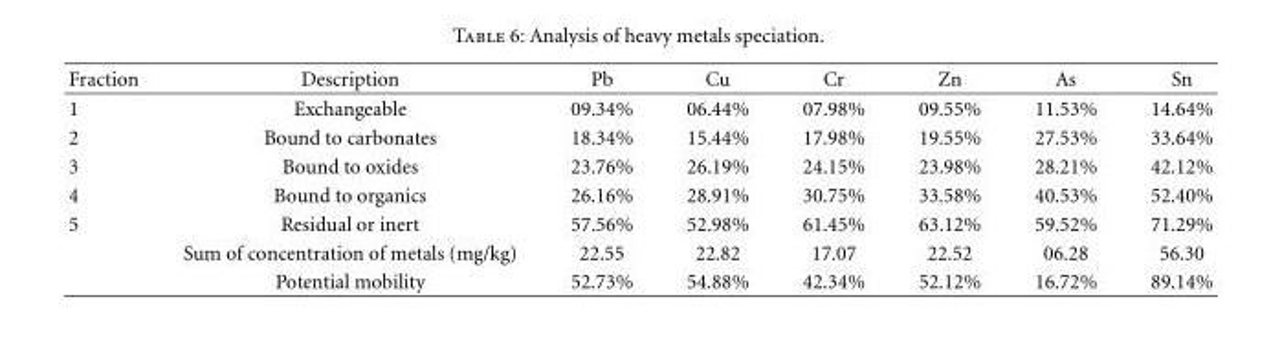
<table><thead><tr><td>Fraction</td><td>Description</td><td>Pb</td><td>Cu</td><td>Cr</td><td>Zn</td><td>As</td><td>Sn</td></tr></thead><tbody><tr><td>1</td><td>Exchangeable</td><td>09.34%</td><td>06.44%</td><td>07.98%</td><td>09.55%</td><td>11.53%</td><td>14.64%</td></tr><tr><td>2</td><td>Bound to carbonates</td><td>18.34%</td><td>15.44%</td><td>17.98%</td><td>19.55%</td><td>27.53%</td><td>33.64%</td></tr><tr><td>3</td><td>Bound to oxides</td><td>23.76%</td><td>26.19%</td><td>24.15%</td><td>23.98%</td><td>28.21%</td><td>42.12%</td></tr><tr><td>4</td><td>Bound to organics</td><td>26.16%</td><td>28.91%</td><td>30.75%</td><td>33.58%</td><td>40.53%</td><td>52.40%</td></tr><tr><td rowspan="3">5</td><td>Residual or inert</td><td>57.56%</td><td>52.98%</td><td>61.45%</td><td>63.12%</td><td>59.52%</td><td>71.29%</td></tr><tr><td>Sum of concentration of metals (mg/kg)</td><td>22.55</td><td>22.82</td><td>17.07</td><td>22.52</td><td>06.28</td><td>56.30</td></tr><tr><td>Potential mobility</td><td>52.73%</td><td>54.88%</td><td>42.34%</td><td>52.12%</td><td>16.72%</td><td>89.14%</td></tr></tbody></table>